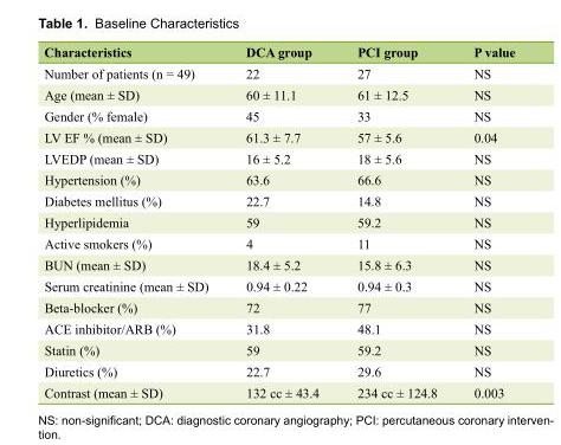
<table><thead><tr><td>Characteristics</td><td>DCA group</td><td>PCI group</td><td>P value</td></tr></thead><tbody><tr><td>Number of patients (n = 49)</td><td>22</td><td>27</td><td>NS</td></tr><tr><td>Age (mean ± SD)</td><td>60 ± 11.1</td><td>61 ± 12.5</td><td>NS</td></tr><tr><td>Gender (% female)</td><td>45</td><td>33</td><td>NS</td></tr><tr><td>LV EF % (mean ± SD)</td><td>61.3 ± 7.7</td><td>57 ± 5.6</td><td>0.04</td></tr><tr><td>LVEDP (mean ± SD)</td><td>16 ± 5.2</td><td>18 ± 5.6</td><td>NS</td></tr><tr><td>Hypertension (%)</td><td>63.6</td><td>66.6</td><td>NS</td></tr><tr><td>Diabetes mellitus (%)</td><td>22.7</td><td>14.8</td><td>NS</td></tr><tr><td>Hyperlipidemia</td><td>59</td><td>59.2</td><td>NS</td></tr><tr><td>Active smokers (%)</td><td>4</td><td>11</td><td>NS</td></tr><tr><td>BUN (mean ± SD)</td><td>18.4 ± 5.2</td><td>15.8 ± 6.3</td><td>NS</td></tr><tr><td>Serum creatinine (mean ± SD)</td><td>0.94 ± 0.22</td><td>0.94 ± 0.3</td><td>NS</td></tr><tr><td>Beta-blocker (%)</td><td>72</td><td>77</td><td>NS</td></tr><tr><td>ACE inhibitor/ARB (%)</td><td>31.8</td><td>48.1</td><td>NS</td></tr><tr><td>Statin (%)</td><td>59</td><td>59.2</td><td>NS</td></tr><tr><td>Diuretics (%)</td><td>22.7</td><td>29.6</td><td>NS</td></tr><tr><td>Contrast (mean ± SD)</td><td>132 cc ± 43.4</td><td>234 cc ± 124.8</td><td>0.003</td></tr></tbody></table>